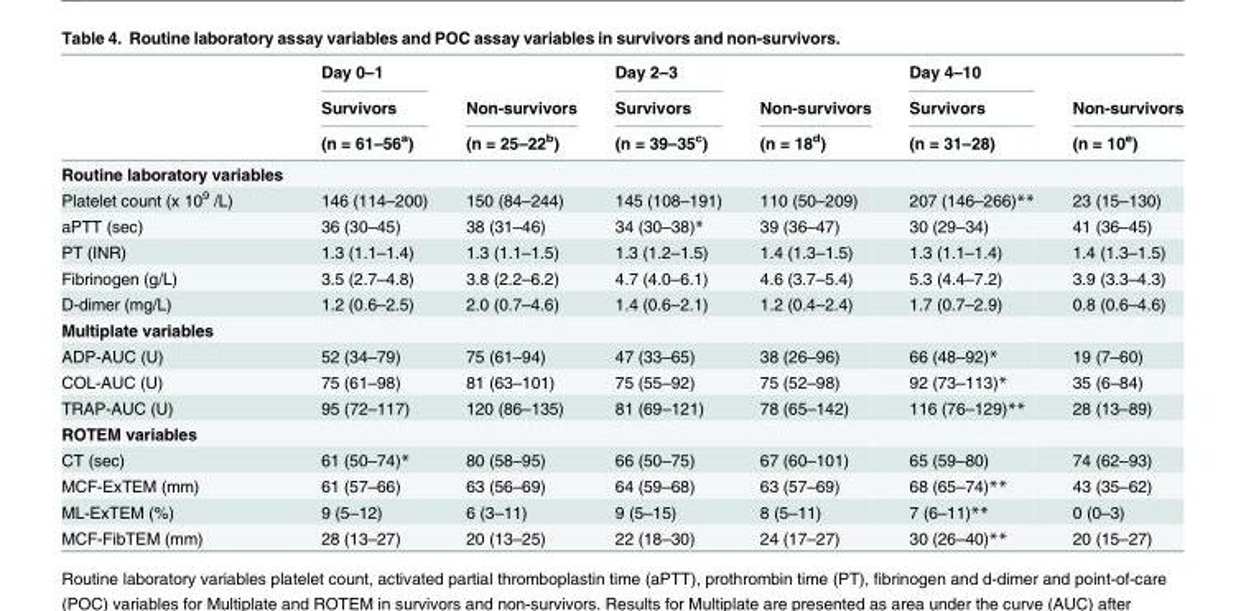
<table><thead><tr><td rowspan="3"></td><td rowspan="3">Day 0–1 Survivors (n = 61–56<sup>a</sup>)</td><td rowspan="3">Non-survivors (n = 25–22<sup>b</sup>)</td><td rowspan="3">Day 2–3 Survivors (n = 39–35<sup>c</sup>)</td><td rowspan="3">Non-survivors (n = 18<sup>d</sup>)</td><td rowspan="3">Day 4–10 Survivors (n = 31–28)</td><td rowspan="3">Non-survivors (n = 10<sup>e</sup>)</td></tr><tr></tr><tr></tr></thead><tbody><tr><td colspan="7">Routine laboratory variables</td></tr><tr><td>Platelet count (x 10<sup>9</sup> /L)</td><td>146 (114–200)</td><td>150 (84–244)</td><td>145 (108–191)</td><td>110 (50–209)</td><td>207 (146–266)**</td><td>23 (15–130)</td></tr><tr><td>aPTT (sec)</td><td>36 (30–45)</td><td>38 (31–46)</td><td>34 (30–38)*</td><td>39 (36–47)</td><td>30 (29–34)</td><td>41 (36–45)</td></tr><tr><td>PT (INR)</td><td>1.3 (1.1–1.4)</td><td>1.3 (1.1–1.5)</td><td>1.3 (1.2–1.5)</td><td>1.4 (1.3–1.5)</td><td>1.3 (1.1–1.4)</td><td>1.4 (1.3–1.5)</td></tr><tr><td>Fibrinogen (g/L)</td><td>3.5 (2.7–4.8)</td><td>3.8 (2.2–6.2)</td><td>4.7 (4.0–6.1)</td><td>4.6 (3.7–5.4)</td><td>5.3 (4.4–7.2)</td><td>3.9 (3.3–4.3)</td></tr><tr><td>D-dimer (mg/L)</td><td>1.2 (0.6–2.5)</td><td>2.0 (0.7–4.6)</td><td>1.4 (0.6–2.1)</td><td>1.2 (0.4–2.4)</td><td>1.7 (0.7–2.9)</td><td>0.8 (0.6–4.6)</td></tr><tr><td colspan="7">Multiplate variables</td></tr><tr><td>ADP-AUC (U)</td><td>52 (34–79)</td><td>75 (61–94)</td><td>47 (33–65)</td><td>38 (26–96)</td><td>66 (48–92)*</td><td>19 (7–60)</td></tr><tr><td>COL-AUC (U)</td><td>75 (61–98)</td><td>81 (63–101)</td><td>75 (55–92)</td><td>75 (52–98)</td><td>92 (73–113)*</td><td>35 (6–84)</td></tr><tr><td>TRAP-AUC (U)</td><td>95 (72–117)</td><td>120 (86–135)</td><td>81 (69–121)</td><td>78 (65–142)</td><td>116 (76–129)**</td><td>28 (13–89)</td></tr><tr><td colspan="7">ROTEM variables</td></tr><tr><td>CT (sec)</td><td>61 (50–74)*</td><td>80 (58–95)</td><td>66 (50–75)</td><td>67 (60–101)</td><td>65 (59–80)</td><td>74 (62–93)</td></tr><tr><td>MCF-ExTEM (mm)</td><td>61 (57–66)</td><td>63 (56–69)</td><td>64 (59–68)</td><td>63 (57–69)</td><td>68 (65–74)**</td><td>43 (35–62)</td></tr><tr><td>ML-ExTEM (%)</td><td>9 (5–12)</td><td>6 (3–11)</td><td>9 (5–15)</td><td>8 (5–11)</td><td>7 (6–11)**</td><td>0 (0–3)</td></tr><tr><td>MCF-FibTEM (mm)</td><td>28 (13–27)</td><td>20 (13–25)</td><td>22 (18–30)</td><td>24 (17–27)</td><td>30 (26–40)**</td><td>20 (15–27)</td></tr></tbody></table>